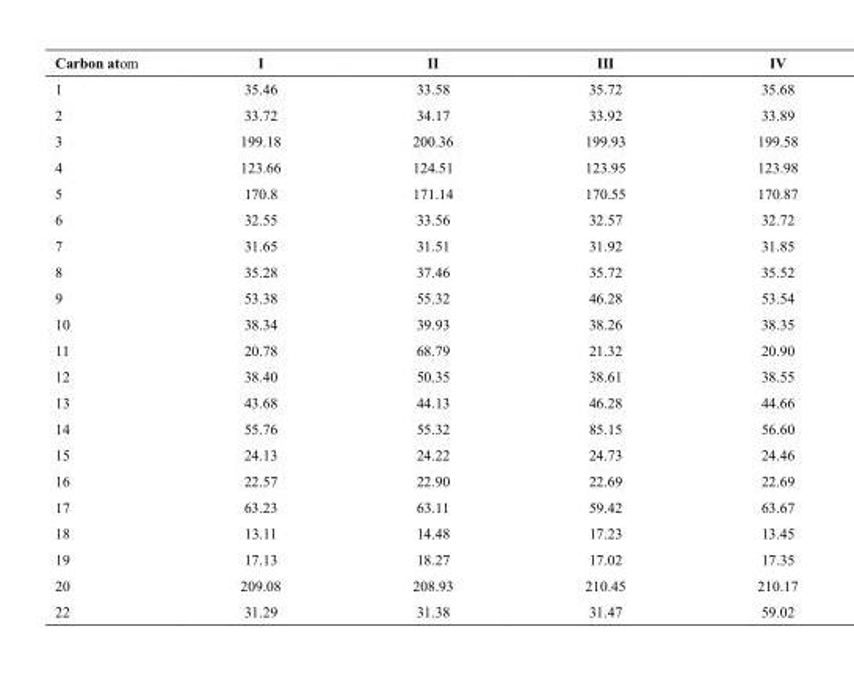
<table><thead><tr><td>Carbon atom</td><td>I</td><td>II</td><td>III</td><td>IV</td></tr></thead><tbody><tr><td>1</td><td>35.46</td><td>33.58</td><td>35.72</td><td>35.68</td></tr><tr><td>2</td><td>33.72</td><td>34.17</td><td>33.92</td><td>33.89</td></tr><tr><td>3</td><td>199.18</td><td>200.36</td><td>199.93</td><td>199.58</td></tr><tr><td>4</td><td>123.66</td><td>124.51</td><td>123.95</td><td>123.98</td></tr><tr><td>5</td><td>170.8</td><td>171.14</td><td>170.55</td><td>170.87</td></tr><tr><td>6</td><td>32.55</td><td>33.56</td><td>32.57</td><td>32.72</td></tr><tr><td>7</td><td>31.65</td><td>31.51</td><td>31.92</td><td>31.85</td></tr><tr><td>8</td><td>35.28</td><td>37.46</td><td>35.72</td><td>35.52</td></tr><tr><td>9</td><td>53.38</td><td>55.32</td><td>46.28</td><td>53.54</td></tr><tr><td>10</td><td>38.34</td><td>39.93</td><td>38.26</td><td>38.35</td></tr><tr><td>11</td><td>20.78</td><td>68.79</td><td>21.32</td><td>20.90</td></tr><tr><td>12</td><td>38.40</td><td>50.35</td><td>38.61</td><td>38.55</td></tr><tr><td>13</td><td>43.68</td><td>44.13</td><td>46.28</td><td>44.66</td></tr><tr><td>14</td><td>55.76</td><td>55.32</td><td>85.15</td><td>56.60</td></tr><tr><td>15</td><td>24.13</td><td>24.22</td><td>24.73</td><td>24.46</td></tr><tr><td>16</td><td>22.57</td><td>22.90</td><td>22.69</td><td>22.69</td></tr><tr><td>17</td><td>63.23</td><td>63.11</td><td>59.42</td><td>63.67</td></tr><tr><td>18</td><td>13.11</td><td>14.48</td><td>17.23</td><td>13.45</td></tr><tr><td>19</td><td>17.13</td><td>18.27</td><td>17.02</td><td>17.35</td></tr><tr><td>20</td><td>209.08</td><td>208.93</td><td>210.45</td><td>210.17</td></tr><tr><td>22</td><td>31.29</td><td>31.38</td><td>31.47</td><td>59.02</td></tr></tbody></table>